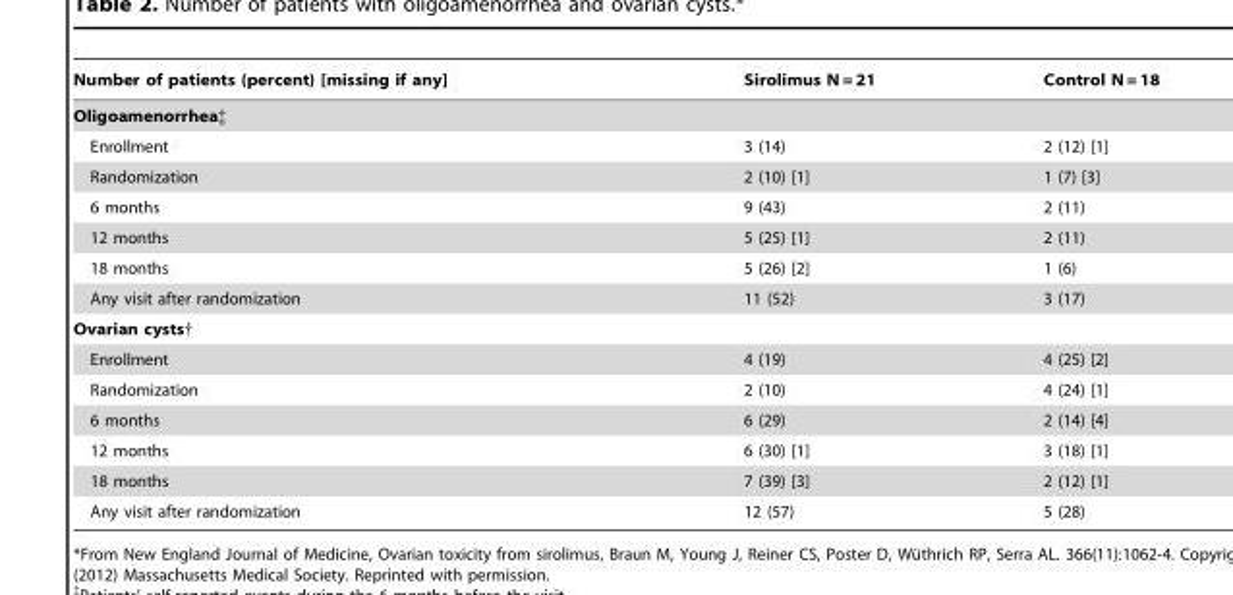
<table><thead><tr><td>Number of patients (percent) [missing if any]</td><td>Sirolimus N = 21</td><td>Control N = 18</td></tr></thead><tbody><tr><td colspan="3">Oligoamenorrhea‡</td></tr><tr><td>Enrollment</td><td>3 (14)</td><td>2 (12) [1]</td></tr><tr><td>Randomization</td><td>2 (10) [1]</td><td>1 (7) [3]</td></tr><tr><td>6 months</td><td>9 (43)</td><td>2 (11)</td></tr><tr><td>12 months</td><td>5 (25) [1]</td><td>2 (11)</td></tr><tr><td>18 months</td><td>5 (26) [2]</td><td>1 (6)</td></tr><tr><td>Any visit after randomization</td><td>11 (52)</td><td>3 (17)</td></tr><tr><td colspan="3">Ovarian cysts†</td></tr><tr><td>Enrollment</td><td>4 (19)</td><td>4 (25) [2]</td></tr><tr><td>Randomization</td><td>2 (10)</td><td>4 (24) [1]</td></tr><tr><td>6 months</td><td>6 (29)</td><td>2 (14) [4]</td></tr><tr><td>12 months</td><td>6 (30) [1]</td><td>3 (18) [1]</td></tr><tr><td>18 months</td><td>7 (39) [3]</td><td>2 (12) [1]</td></tr><tr><td>Any visit after randomization</td><td>12 (57)</td><td>5 (28)</td></tr></tbody></table>